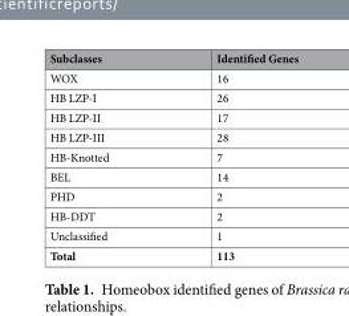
<table><thead><tr><td>Subclasses</td><td>Identified Genes</td></tr></thead><tbody><tr><td>WOX</td><td>16</td></tr><tr><td>HB LZP-I</td><td>26</td></tr><tr><td>HB LZP-II</td><td>17</td></tr><tr><td>HB LZP-III</td><td>28</td></tr><tr><td>HB-Knotted</td><td>7</td></tr><tr><td>BEL</td><td>14</td></tr><tr><td>PHD</td><td>2</td></tr><tr><td>HB-DDT</td><td>2</td></tr><tr><td>Unclassified</td><td>1</td></tr><tr><td>Total</td><td>113</td></tr></tbody></table>